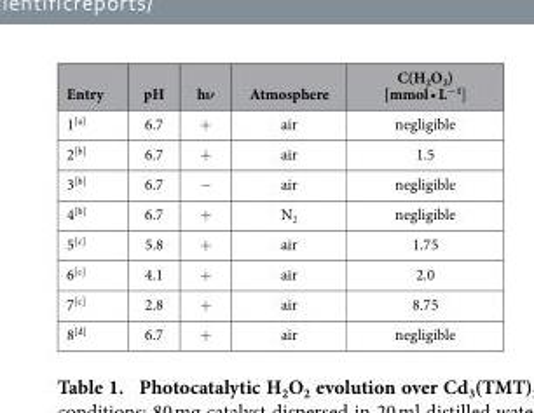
<table><thead><tr><td>Entry</td><td>pH</td><td>hν</td><td>Atmosphere</td><td>C(H<sub>2</sub>O<sub>2</sub>) [mmol • L<sup>−1</sup>]</td></tr></thead><tbody><tr><td>1<sup>[a]</sup></td><td>6.7</td><td>+</td><td>air</td><td>negligible</td></tr><tr><td>2<sup>[b]</sup></td><td>6.7</td><td>+</td><td>air</td><td>1.5</td></tr><tr><td>3<sup>[b]</sup></td><td>6.7</td><td>−</td><td>air</td><td>negligible</td></tr><tr><td>4<sup>[b]</sup></td><td>6.7</td><td>+</td><td>N<sub>2</sub></td><td>negligible</td></tr><tr><td>5<sup>[c]</sup></td><td>5.8</td><td>+</td><td>air</td><td>1.75</td></tr><tr><td>6<sup>[c]</sup></td><td>4.1</td><td>+</td><td>air</td><td>2.0</td></tr><tr><td>7<sup>[c]</sup></td><td>2.8</td><td>+</td><td>air</td><td>8.75</td></tr><tr><td>8<sup>[d]</sup></td><td>6.7</td><td>+</td><td>air</td><td>negligible</td></tr></tbody></table>